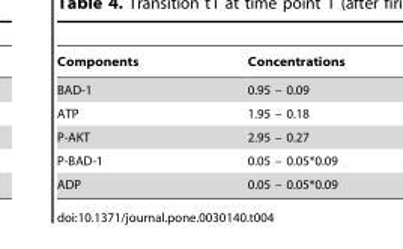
<table><thead><tr><td>Components</td><td>Concentrations</td></tr></thead><tbody><tr><td>BAD-1</td><td>0.95 – 0.09</td></tr><tr><td>ATP</td><td>1.95 – 0.18</td></tr><tr><td>P-AKT</td><td>2.95 – 0.27</td></tr><tr><td>P-BAD-1</td><td>0.05 – 0.05*0.09</td></tr><tr><td>ADP</td><td>0.05 – 0.05*0.09</td></tr></tbody></table>